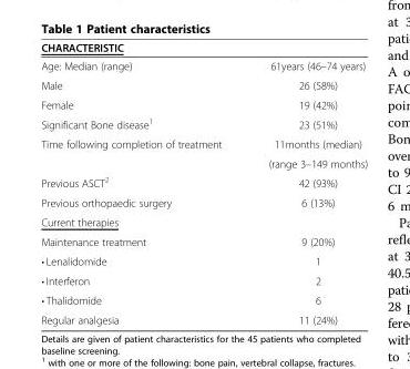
<table><thead><tr><td>CHARACTERISTIC</td><td></td></tr></thead><tbody><tr><td>Age: Median (range)</td><td>61years (46–74 years)</td></tr><tr><td>Male</td><td>26 (58%)</td></tr><tr><td>Female</td><td>19 (42%)</td></tr><tr><td>Significant Bone disease<sup>1</sup></td><td>23 (51%)</td></tr><tr><td rowspan="2">Time following completion of treatment</td><td>11months (median)</td></tr><tr><td>(range 3–149 months)</td></tr><tr><td>Previous ASCT<sup>2</sup></td><td>42 (93%)</td></tr><tr><td>Previous orthopaedic surgery</td><td>6 (13%)</td></tr><tr><td colspan="2">Current therapies</td></tr><tr><td>Maintenance treatment</td><td>9 (20%)</td></tr><tr><td>• Lenalidomide</td><td>1</td></tr><tr><td>• Interferon</td><td>2</td></tr><tr><td>• Thalidomide</td><td>6</td></tr><tr><td>Regular analgesia</td><td>11 (24%)</td></tr></tbody></table>